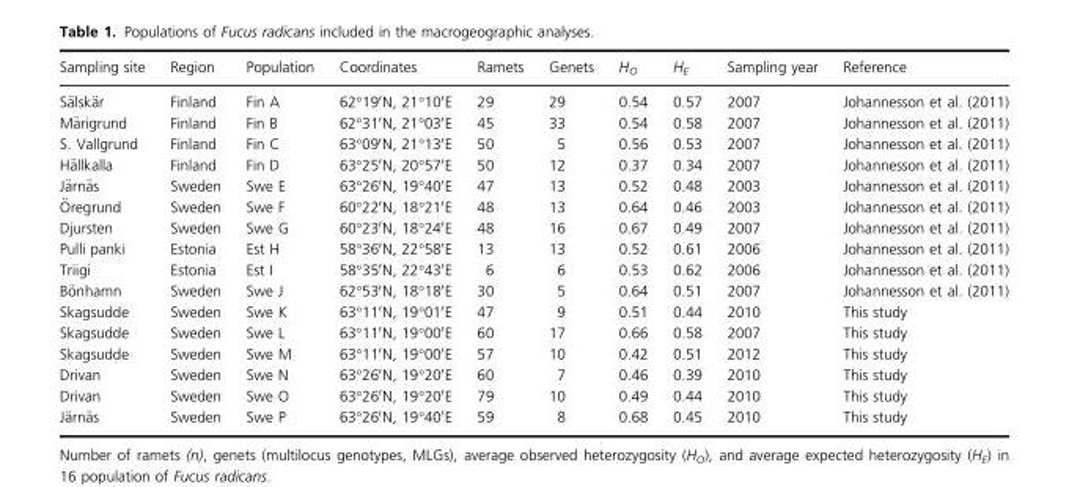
<table><thead><tr><td>Sampling site</td><td>Region</td><td>Population</td><td>Coordinates</td><td>Ramets</td><td>Genets</td><td>H<sub>O</sub></td><td>H<sub>E</sub></td><td>Sampling year</td><td>Reference</td></tr></thead><tbody><tr><td>S€alsk€ar</td><td>Finland</td><td>Fin A</td><td>62°19′N, 21°10′E</td><td>29</td><td>29</td><td>0.54</td><td>0.57</td><td>2007</td><td>Johannesson et al. (2011)</td></tr><tr><td>M€arigrund</td><td>Finland</td><td>Fin B</td><td>62°31′N, 21°03′E</td><td>45</td><td>33</td><td>0.54</td><td>0.58</td><td>2007</td><td>Johannesson et al. (2011)</td></tr><tr><td>S. Vallgrund</td><td>Finland</td><td>Fin C</td><td>63°09′N, 21°13′E</td><td>50</td><td>5</td><td>0.56</td><td>0.53</td><td>2007</td><td>Johannesson et al. (2011)</td></tr><tr><td>H€allkalla</td><td>Finland</td><td>Fin D</td><td>63°25′N, 20°57′E</td><td>50</td><td>12</td><td>0.37</td><td>0.34</td><td>2007</td><td>Johannesson et al. (2011)</td></tr><tr><td>J€arn€as</td><td>Sweden</td><td>Swe E</td><td>63°26′N, 19°40′E</td><td>47</td><td>13</td><td>0.52</td><td>0.48</td><td>2003</td><td>Johannesson et al. (2011)</td></tr><tr><td>€Oregrund</td><td>Sweden</td><td>Swe F</td><td>60°22′N, 18°21′E</td><td>48</td><td>13</td><td>0.64</td><td>0.46</td><td>2003</td><td>Johannesson et al. (2011)</td></tr><tr><td>Djursten</td><td>Sweden</td><td>Swe G</td><td>60°23′N, 18°24′E</td><td>48</td><td>16</td><td>0.67</td><td>0.49</td><td>2007</td><td>Johannesson et al. (2011)</td></tr><tr><td>Pulli panki</td><td>Estonia</td><td>Est H</td><td>58°36′N, 22°58′E</td><td>13</td><td>13</td><td>0.52</td><td>0.61</td><td>2006</td><td>Johannesson et al. (2011)</td></tr><tr><td>Triigi</td><td>Estonia</td><td>Est I</td><td>58°35′N, 22°43′E</td><td>6</td><td>6</td><td>0.53</td><td>0.62</td><td>2006</td><td>Johannesson et al. (2011)</td></tr><tr><td>B€onhamn</td><td>Sweden</td><td>Swe J</td><td>62°53′N, 18°18′E</td><td>30</td><td>5</td><td>0.64</td><td>0.51</td><td>2007</td><td>Johannesson et al. (2011)</td></tr><tr><td>Skagsudde</td><td>Sweden</td><td>Swe K</td><td>63°11′N, 19°01′E</td><td>47</td><td>9</td><td>0.51</td><td>0.44</td><td>2010</td><td>This study</td></tr><tr><td>Skagsudde</td><td>Sweden</td><td>Swe L</td><td>63°11′N, 19°00′E</td><td>60</td><td>17</td><td>0.66</td><td>0.58</td><td>2007</td><td>This study</td></tr><tr><td>Skagsudde</td><td>Sweden</td><td>Swe M</td><td>63°11′N, 19°00′E</td><td>57</td><td>10</td><td>0.42</td><td>0.51</td><td>2012</td><td>This study</td></tr><tr><td>Drivan</td><td>Sweden</td><td>Swe N</td><td>63°26′N, 19°20′E</td><td>60</td><td>7</td><td>0.46</td><td>0.39</td><td>2010</td><td>This study</td></tr><tr><td>Drivan</td><td>Sweden</td><td>Swe O</td><td>63°26′N, 19°20′E</td><td>79</td><td>10</td><td>0.49</td><td>0.44</td><td>2010</td><td>This study</td></tr><tr><td>J€arn€as</td><td>Sweden</td><td>Swe P</td><td>63°26′N, 19°40′E</td><td>59</td><td>8</td><td>0.68</td><td>0.45</td><td>2010</td><td>This study</td></tr></tbody></table>